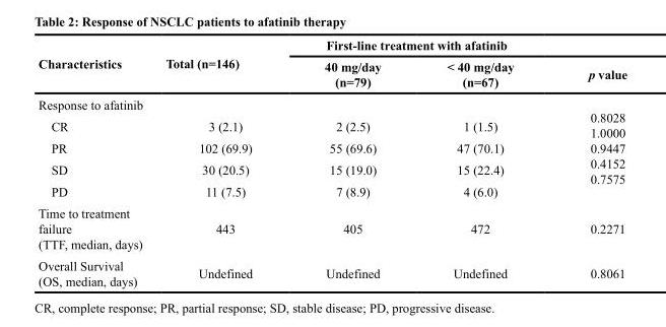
<table><thead><tr><td rowspan="2">Characteristics</td><td rowspan="2">Total (n=146)</td><td colspan="2">First-line treatment with afatinib</td><td rowspan="2">p value</td></tr><tr><td>40 mg/day (n=79)</td><td>&lt; 40 mg/day (n=67)</td></tr></thead><tbody><tr><td colspan="4">Response to afatinib</td><td rowspan="5">0.8028 1.0000 0.9447 0.4152 0.7575</td></tr><tr><td>CR</td><td>3 (2.1)</td><td>2 (2.5)</td><td>1 (1.5)</td></tr><tr><td>PR</td><td>102 (69.9)</td><td>55 (69.6)</td><td>47 (70.1)</td></tr><tr><td>SD</td><td>30 (20.5)</td><td>15 (19.0)</td><td>15 (22.4)</td></tr><tr><td>PD</td><td>11 (7.5)</td><td>7 (8.9)</td><td>4 (6.0)</td></tr><tr><td>Time to treatment failure (TTF, median, days)</td><td>443</td><td>405</td><td>472</td><td>0.2271</td></tr><tr><td>Overall Survival (OS, median, days)</td><td>Undefined</td><td>Undefined</td><td>Undefined</td><td>0.8061</td></tr></tbody></table>